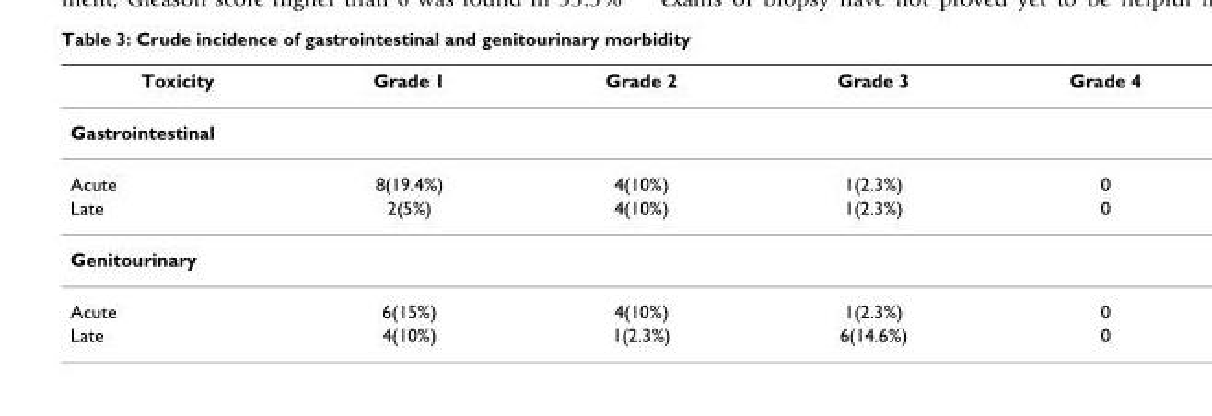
<table><thead><tr><td>Toxicity</td><td>Grade 1</td><td>Grade 2</td><td>Grade 3</td><td>Grade 4</td></tr></thead><tbody><tr><td colspan="5">Gastrointestinal</td></tr><tr><td>Acute</td><td>8(19.4%)</td><td>4(10%)</td><td>1(2.3%)</td><td>0</td></tr><tr><td>Late</td><td>2(5%)</td><td>4(10%)</td><td>1(2.3%)</td><td>0</td></tr><tr><td colspan="5">Genitourinary</td></tr><tr><td>Acute</td><td>6(15%)</td><td>4(10%)</td><td>1(2.3%)</td><td>0</td></tr><tr><td>Late</td><td>4(10%)</td><td>1(2.3%)</td><td>6(14.6%)</td><td>0</td></tr></tbody></table>